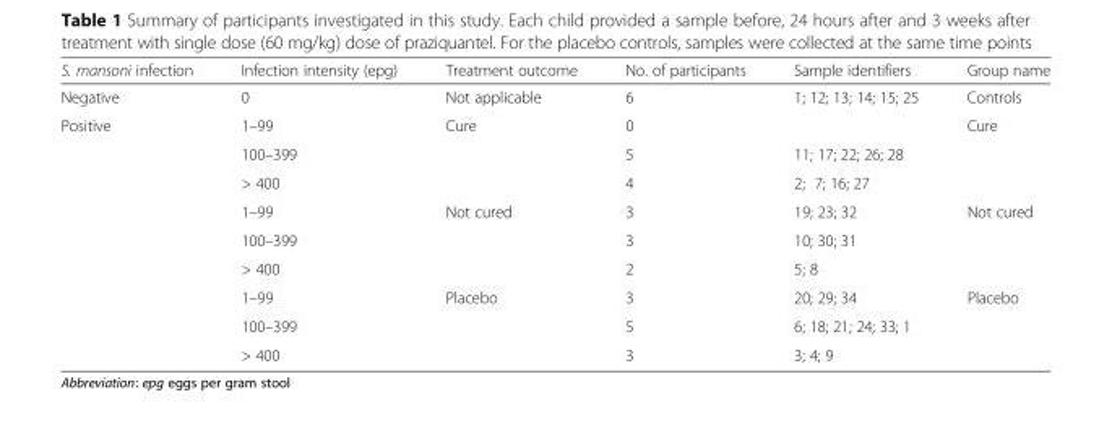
<table><thead><tr><td>S. mansoni infection</td><td>Infection intensity (epg)</td><td>Treatment outcome</td><td>No. of participants</td><td>Sample identifiers</td><td>Group name</td></tr></thead><tbody><tr><td>Negative</td><td>0</td><td>Not applicable</td><td>6</td><td>1; 12; 13; 14; 15; 25</td><td>Controls</td></tr><tr><td rowspan="9">Positive</td><td>1–99</td><td rowspan="3">Cure</td><td>0</td><td></td><td rowspan="3">Cure</td></tr><tr><td>100–399</td><td>5</td><td>11; 17; 22; 26; 28</td></tr><tr><td>&gt; 400</td><td>4</td><td>2; 7; 16; 27</td></tr><tr><td>1–99</td><td rowspan="3">Not cured</td><td>3</td><td>19; 23; 32</td><td rowspan="3">Not cured</td></tr><tr><td>100–399</td><td>3</td><td>10; 30; 31</td></tr><tr><td>&gt; 400</td><td>2</td><td>5; 8</td></tr><tr><td>1–99</td><td rowspan="3">Placebo</td><td>3</td><td>20; 29; 34</td><td rowspan="3">Placebo</td></tr><tr><td>100–399</td><td>5</td><td>6; 18; 21; 24; 33; 1</td></tr><tr><td>&gt; 400</td><td>3</td><td>3; 4; 9</td></tr></tbody></table>